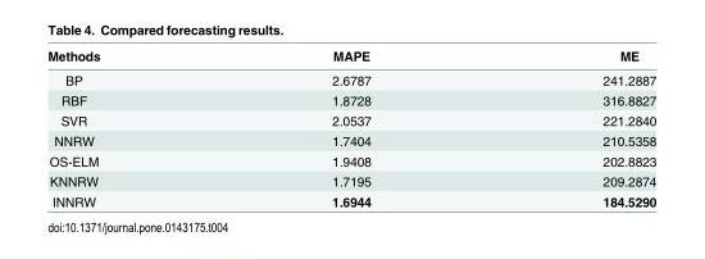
<table><thead><tr><td>Methods</td><td>MAPE</td><td>ME</td></tr></thead><tbody><tr><td>BP</td><td>2.6787</td><td>241.2887</td></tr><tr><td>RBF</td><td>1.8728</td><td>316.8827</td></tr><tr><td>SVR</td><td>2.0537</td><td>221.2840</td></tr><tr><td>NNRW</td><td>1.7404</td><td>210.5358</td></tr><tr><td>OS-ELM</td><td>1.9408</td><td>202.8823</td></tr><tr><td>KNNRW</td><td>1.7195</td><td>209.2874</td></tr><tr><td>INNRW</td><td>1.6944</td><td>184.5290</td></tr></tbody></table>